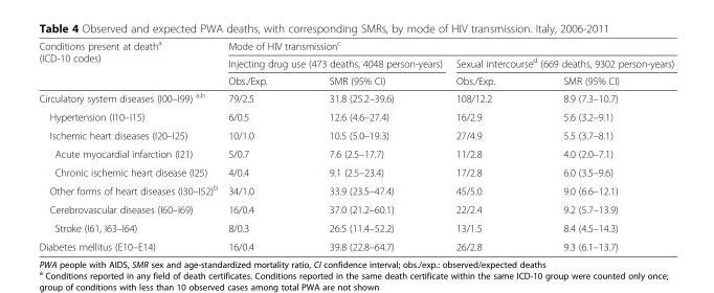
<table><thead><tr><td rowspan="3">Conditions present at death<sup>a</sup> (ICD-10 codes)</td><td colspan="4">Mode of HIV transmission<sup>c</sup></td></tr><tr><td colspan="2">Injecting drug use (473 deaths, 4048 person-years)</td><td colspan="2">Sexual intercourse<sup>d</sup> (669 deaths, 9302 person-years)</td></tr><tr><td>Obs./Exp.</td><td>SMR (95% CI)</td><td>Obs./Exp.</td><td>SMR (95% CI)</td></tr></thead><tbody><tr><td>Circulatory system diseases (I00–I99) <sup>a,b</sup></td><td>79/2.5</td><td>31.8 (25.2–39.6)</td><td>108/12.2</td><td>8.9 (7.3–10.7)</td></tr><tr><td>Hypertension (I10–I15)</td><td>6/0.5</td><td>12.6 (4.6–27.4)</td><td>16/2.9</td><td>5.6 (3.2–9.1)</td></tr><tr><td>Ischemic heart diseases (I20–I25)</td><td>10/1.0</td><td>10.5 (5.0–19.3)</td><td>27/4.9</td><td>5.5 (3.7–8.1)</td></tr><tr><td>Acute myocardial infarction (I21)</td><td>5/0.7</td><td>7.6 (2.5–17.7)</td><td>11/2.8</td><td>4.0 (2.0–7.1)</td></tr><tr><td>Chronic ischemic heart disease (I25)</td><td>4/0.4</td><td>9.1 (2.5–23.4)</td><td>17/2.8</td><td>6.0 (3.5–9.6)</td></tr><tr><td>Other forms of heart diseases (I30–I52)<sup>b</sup></td><td>34/1.0</td><td>33.9 (23.5–47.4)</td><td>45/5.0</td><td>9.0 (6.6–12.1)</td></tr><tr><td>Cerebrovascular diseases (I60–I69)</td><td>16/0.4</td><td>37.0 (21.2–60.1)</td><td>22/2.4</td><td>9.2 (5.7–13.9)</td></tr><tr><td>Stroke (I61, I63–I64)</td><td>8/0.3</td><td>26.5 (11.4–52.2)</td><td>13/1.5</td><td>8.4 (4.5–14.3)</td></tr><tr><td>Diabetes mellitus (E10–E14)</td><td>16/0.4</td><td>39.8 (22.8–64.7)</td><td>26/2.8</td><td>9.3 (6.1–13.7)</td></tr></tbody></table>